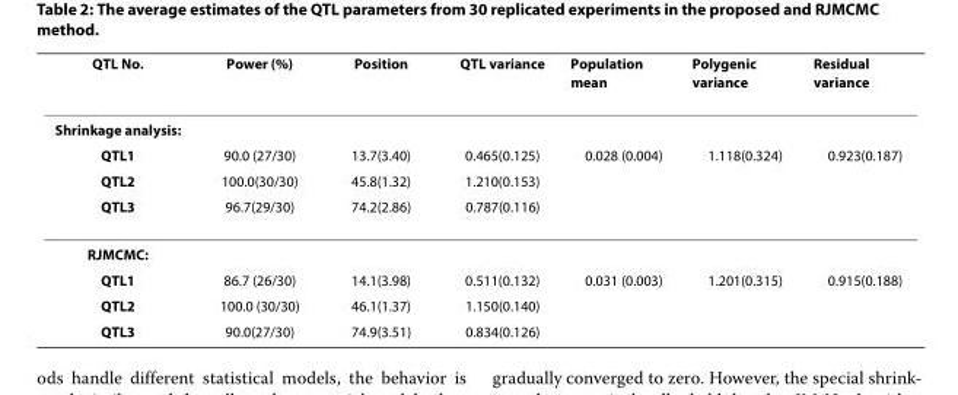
<table><thead><tr><td>QTL No.</td><td>Power (%)</td><td>Position</td><td>QTL variance</td><td>Population mean</td><td>Polygenic variance</td><td>Residual variance</td></tr></thead><tbody><tr><td colspan="7">Shrinkage analysis:</td></tr><tr><td>QTL1</td><td>90.0 (27/30)</td><td>13.7(3.40)</td><td>0.465(0.125)</td><td>0.028 (0.004)</td><td>1.118(0.324)</td><td>0.923(0.187)</td></tr><tr><td>QTL2</td><td>100.0(30/30)</td><td>45.8(1.32)</td><td>1.210(0.153)</td><td></td><td></td><td></td></tr><tr><td>QTL3</td><td>96.7(29/30)</td><td>74.2(2.86)</td><td>0.787(0.116)</td><td></td><td></td><td></td></tr><tr><td colspan="7">RJMCMC:</td></tr><tr><td>QTL1</td><td>86.7 (26/30)</td><td>14.1(3.98)</td><td>0.511(0.132)</td><td>0.031 (0.003)</td><td>1.201(0.315)</td><td>0.915(0.188)</td></tr><tr><td>QTL2</td><td>100.0 (30/30)</td><td>46.1(1.37)</td><td>1.150(0.140)</td><td></td><td></td><td></td></tr><tr><td>QTL3</td><td>90.0(27/30)</td><td>74.9(3.51)</td><td>0.834(0.126)</td><td></td><td></td><td></td></tr></tbody></table>